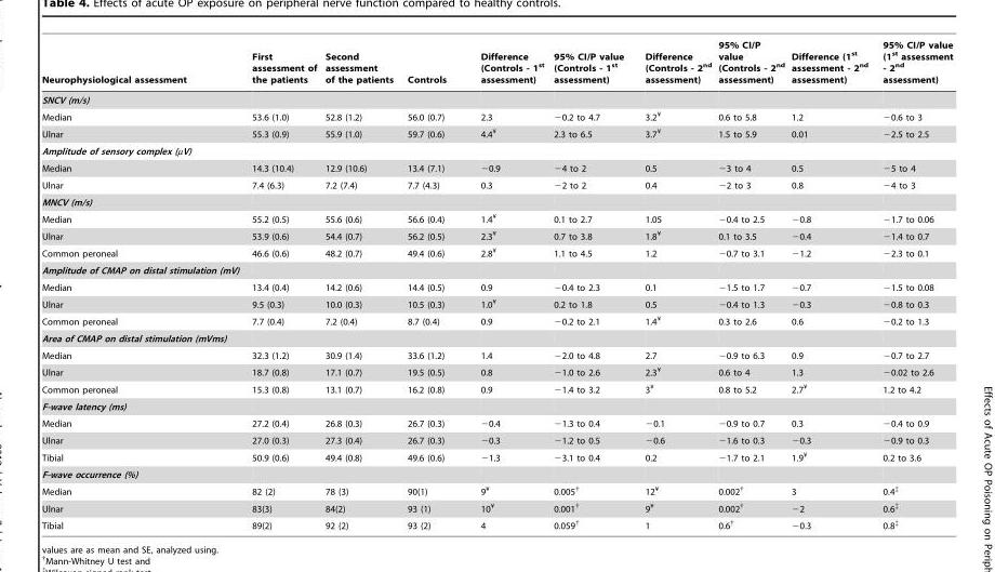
<table><thead><tr><td>Neurophysiological assessment</td><td>First assessment of the patients</td><td>Second assessment of the patients</td><td>Controls</td><td>Difference (Controls - 1<sup>st</sup> assessment)</td><td>95% CI/P value (Controls - 1<sup>st</sup> assessment)</td><td>Difference (Controls - 2<sup>nd</sup> assessment)</td><td>95% CI/P value (Controls - 2<sup>nd</sup> assessment)</td><td>Difference (1<sup>st</sup> assessment - 2<sup>nd</sup> assessment)</td><td>95% CI/P value (1<sup>st</sup> assessment - 2<sup>nd</sup> assessment)</td></tr></thead><tbody><tr><td colspan="10">SNCV (m/s)</td></tr><tr><td>Median</td><td>53.6 (1.0)</td><td>52.8 (1.2)</td><td>56.0 (0.7)</td><td>2.3</td><td>−0.2 to 4.7</td><td>3.2¥</td><td>0.6 to 5.8</td><td>1.2</td><td>−0.6 to 3</td></tr><tr><td>Ulnar</td><td>55.3 (0.9)</td><td>55.9 (1.0)</td><td>59.7 (0.6)</td><td>4.4¥</td><td>2.3 to 6.5</td><td>3.7¥</td><td>1.5 to 5.9</td><td>0.01</td><td>−2.5 to 2.5</td></tr><tr><td colspan="10">Amplitude of sensory complex (µV)</td></tr><tr><td>Median</td><td>14.3 (10.4)</td><td>12.9 (10.6)</td><td>13.4 (7.1)</td><td>−0.9</td><td>−4 to 2</td><td>0.5</td><td>−3 to 4</td><td>0.5</td><td>−5 to 4</td></tr><tr><td>Ulnar</td><td>7.4 (6.3)</td><td>7.2 (7.4)</td><td>7.7 (4.3)</td><td>0.3</td><td>−2 to 2</td><td>0.4</td><td>−2 to 3</td><td>0.8</td><td>−4 to 3</td></tr><tr><td colspan="10">MNCV (m/s)</td></tr><tr><td>Median</td><td>55.2 (0.5)</td><td>55.6 (0.6)</td><td>56.6 (0.4)</td><td>1.4¥</td><td>0.1 to 2.7</td><td>1.05</td><td>−0.4 to 2.5</td><td>−0.8</td><td>−1.7 to 0.06</td></tr><tr><td>Ulnar</td><td>53.9 (0.6)</td><td>54.4 (0.7)</td><td>56.2 (0.5)</td><td>2.3¥</td><td>0.7 to 3.8</td><td>1.8¥</td><td>0.1 to 3.5</td><td>−0.4</td><td>−1.4 to 0.7</td></tr><tr><td>Common peroneal</td><td>46.6 (0.6)</td><td>48.2 (0.7)</td><td>49.4 (0.6)</td><td>2.8¥</td><td>1.1 to 4.5</td><td>1.2</td><td>−0.7 to 3.1</td><td>−1.2</td><td>−2.3 to 0.1</td></tr><tr><td colspan="10">Amplitude of CMAP on distal stimulation (mV)</td></tr><tr><td>Median</td><td>13.4 (0.4)</td><td>14.2 (0.6)</td><td>14.4 (0.5)</td><td>0.9</td><td>−0.4 to 2.3</td><td>0.1</td><td>−1.5 to 1.7</td><td>−0.7</td><td>−1.5 to 0.08</td></tr><tr><td>Ulnar</td><td>9.5 (0.3)</td><td>10.0 (0.3)</td><td>10.5 (0.3)</td><td>1.0¥</td><td>0.2 to 1.8</td><td>0.5</td><td>−0.4 to 1.3</td><td>−0.3</td><td>−0.8 to 0.3</td></tr><tr><td>Common peroneal</td><td>7.7 (0.4)</td><td>7.2 (0.4)</td><td>8.7 (0.4)</td><td>0.9</td><td>−0.2 to 2.1</td><td>1.4¥</td><td>0.3 to 2.6</td><td>0.6</td><td>−0.2 to 1.3</td></tr><tr><td colspan="10">Area of CMAP on distal stimulation (mVms)</td></tr><tr><td>Median</td><td>32.3 (1.2)</td><td>30.9 (1.4)</td><td>33.6 (1.2)</td><td>1.4</td><td>−2.0 to 4.8</td><td>2.7</td><td>−0.9 to 6.3</td><td>0.9</td><td>−0.7 to 2.7</td></tr><tr><td>Ulnar</td><td>18.7 (0.8)</td><td>17.1 (0.7)</td><td>19.5 (0.5)</td><td>0.8</td><td>−1.0 to 2.6</td><td>2.3¥</td><td>0.6 to 4</td><td>1.3</td><td>−0.02 to 2.6</td></tr><tr><td>Common peroneal</td><td>15.3 (0.8)</td><td>13.1 (0.7)</td><td>16.2 (0.8)</td><td>0.9</td><td>−1.4 to 3.2</td><td>3¥</td><td>0.8 to 5.2</td><td>2.7¥</td><td>1.2 to 4.2</td></tr><tr><td colspan="10">F-wave latency (ms)</td></tr><tr><td>Median</td><td>27.2 (0.4)</td><td>26.8 (0.3)</td><td>26.7 (0.3)</td><td>−0.4</td><td>−1.3 to 0.4</td><td>−0.1</td><td>−0.9 to 0.7</td><td>0.3</td><td>−0.4 to 0.9</td></tr><tr><td>Ulnar</td><td>27.0 (0.3)</td><td>27.3 (0.4)</td><td>26.7 (0.3)</td><td>−0.3</td><td>−1.2 to 0.5</td><td>−0.6</td><td>−1.6 to 0.3</td><td>−0.3</td><td>−0.9 to 0.3</td></tr><tr><td>Tibial</td><td>50.9 (0.6)</td><td>49.4 (0.8)</td><td>49.6 (0.6)</td><td>−1.3</td><td>−3.1 to 0.4</td><td>0.2</td><td>−1.7 to 2.1</td><td>1.9¥</td><td>0.2 to 3.6</td></tr><tr><td colspan="10">F-wave occurrence (%)</td></tr><tr><td>Median</td><td>82 (2)</td><td>78 (3)</td><td>90(1)</td><td>9¥</td><td>0.005†</td><td>12¥</td><td>0.002†</td><td>3</td><td>0.4‡</td></tr><tr><td>Ulnar</td><td>83(3)</td><td>84(2)</td><td>93 (1)</td><td>10¥</td><td>0.001†</td><td>9¥</td><td>0.002†</td><td>−2</td><td>0.6‡</td></tr><tr><td>Tibial</td><td>89(2)</td><td>92 (2)</td><td>93 (2)</td><td>4</td><td>0.059†</td><td>1</td><td>0.6†</td><td>−0.3</td><td>0.8‡</td></tr></tbody></table>